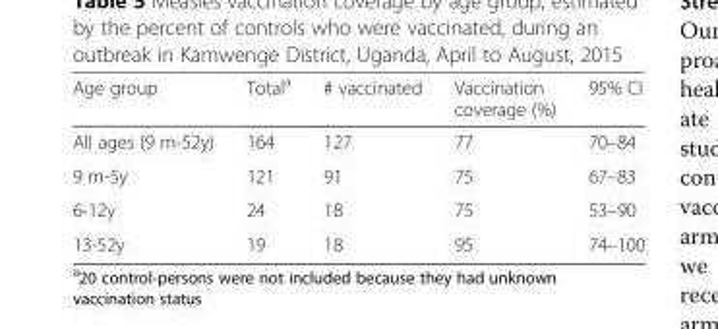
<table><thead><tr><td>Age group</td><td>Total<sup>a</sup></td><td># vaccinated</td><td>Vaccination coverage (%)</td><td>95% CI</td></tr></thead><tbody><tr><td>All ages (9 m-52y)</td><td>164</td><td>127</td><td>77</td><td>70–84</td></tr><tr><td>9 m-5y</td><td>121</td><td>91</td><td>75</td><td>67–83</td></tr><tr><td>6-12y</td><td>24</td><td>18</td><td>75</td><td>53–90</td></tr><tr><td>13-52y</td><td>19</td><td>18</td><td>95</td><td>74–100</td></tr></tbody></table>